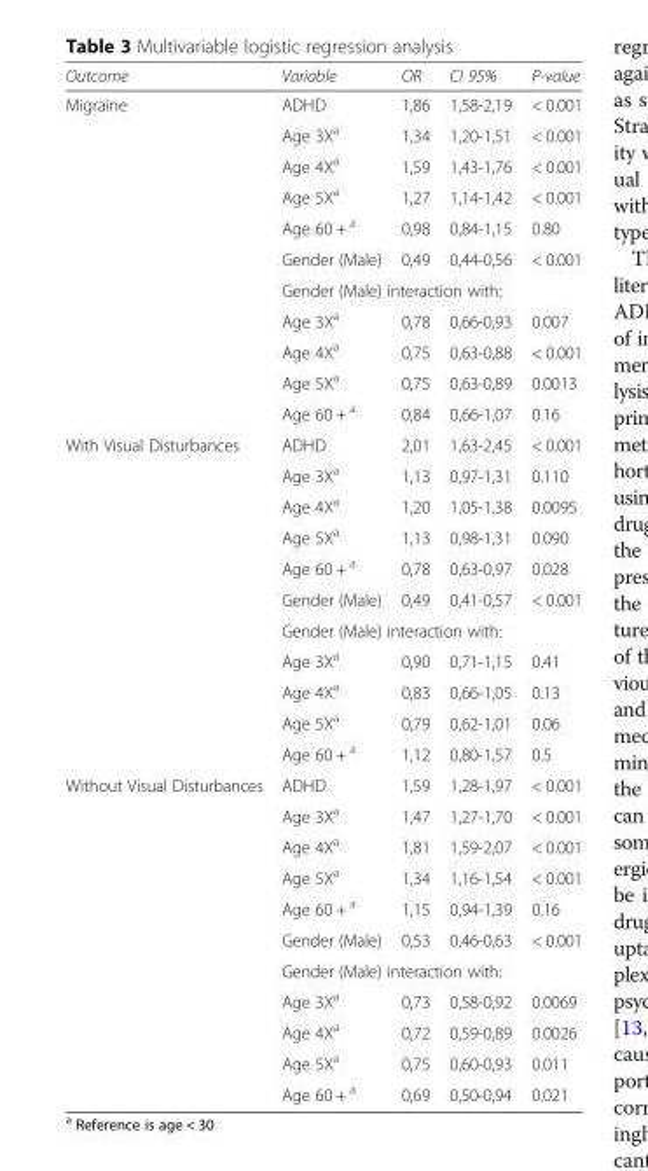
<table><thead><tr><td>Outcome</td><td>Variable</td><td>OR</td><td>CI 95%</td><td>P-value</td></tr></thead><tbody><tr><td rowspan="11">Migraine</td><td>ADHD</td><td>1,86</td><td>1,58-2,19</td><td>&lt; 0.001</td></tr><tr><td>Age 3X<sup>a</sup></td><td>1,34</td><td>1,20-1,51</td><td>&lt; 0.001</td></tr><tr><td>Age 4X<sup>a</sup></td><td>1,59</td><td>1,43-1,76</td><td>&lt; 0.001</td></tr><tr><td>Age 5X<sup>a</sup></td><td>1,27</td><td>1,14-1,42</td><td>&lt; 0.001</td></tr><tr><td>Age 60 + <sup>a</sup></td><td>0,98</td><td>0,84-1,15</td><td>0.80</td></tr><tr><td>Gender (Male)</td><td>0,49</td><td>0,44-0,56</td><td>&lt; 0.001</td></tr><tr><td colspan="3">Gender (Male) interaction with:</td><td></td></tr><tr><td>Age 3X<sup>a</sup></td><td>0,78</td><td>0,66-0,93</td><td>0.007</td></tr><tr><td>Age 4X<sup>a</sup></td><td>0,75</td><td>0,63-0,88</td><td>&lt; 0.001</td></tr><tr><td>Age 5X<sup>a</sup></td><td>0,75</td><td>0,63-0,89</td><td>0.0013</td></tr><tr><td>Age 60 + <sup>a</sup></td><td>0,84</td><td>0,66-1,07</td><td>0.16</td></tr><tr><td rowspan="11">With Visual Disturbances</td><td>ADHD</td><td>2,01</td><td>1,63-2,45</td><td>&lt; 0.001</td></tr><tr><td>Age 3X<sup>a</sup></td><td>1,13</td><td>0,97-1,31</td><td>0.110</td></tr><tr><td>Age 4X<sup>a</sup></td><td>1,20</td><td>1,05-1,38</td><td>0.0095</td></tr><tr><td>Age 5X<sup>a</sup></td><td>1,13</td><td>0,98-1,31</td><td>0.090</td></tr><tr><td>Age 60 + <sup>a</sup></td><td>0,78</td><td>0,63-0,97</td><td>0.028</td></tr><tr><td>Gender (Male)</td><td>0,49</td><td>0,41-0,57</td><td>&lt; 0.001</td></tr><tr><td colspan="4">Gender (Male) interaction with:</td></tr><tr><td>Age 3X<sup>a</sup></td><td>0,90</td><td>0,71-1,15</td><td>0.41</td></tr><tr><td>Age 4X<sup>a</sup></td><td>0,83</td><td>0,66-1,05</td><td>0.13</td></tr><tr><td>Age 5X<sup>a</sup></td><td>0,79</td><td>0,62-1,01</td><td>0.06</td></tr><tr><td>Age 60 + <sup>a</sup></td><td>1,12</td><td>0,80-1,57</td><td>0.5</td></tr><tr><td rowspan="11">Without Visual Disturbances</td><td>ADHD</td><td>1,59</td><td>1,28-1,97</td><td>&lt; 0.001</td></tr><tr><td>Age 3X<sup>a</sup></td><td>1,47</td><td>1,27-1,70</td><td>&lt; 0.001</td></tr><tr><td>Age 4X<sup>a</sup></td><td>1,81</td><td>1,59-2,07</td><td>&lt; 0.001</td></tr><tr><td>Age 5X<sup>a</sup></td><td>1,34</td><td>1,16-1,54</td><td>&lt; 0.001</td></tr><tr><td>Age 60 + <sup>a</sup></td><td>1,15</td><td>0,94-1,39</td><td>0.16</td></tr><tr><td>Gender (Male)</td><td>0,53</td><td>0,46-0,63</td><td>&lt; 0.001</td></tr><tr><td colspan="4">Gender (Male) interaction with:</td></tr><tr><td>Age 3X<sup>a</sup></td><td>0,73</td><td>0,58-0,92</td><td>0.0069</td></tr><tr><td>Age 4X<sup>a</sup></td><td>0,72</td><td>0,59-0,89</td><td>0.0026</td></tr><tr><td>Age 5X<sup>a</sup></td><td>0,75</td><td>0,60-0,93</td><td>0.011</td></tr><tr><td>Age 60 + <sup>a</sup></td><td>0,69</td><td>0,50-0,94</td><td>0.021</td></tr></tbody></table>